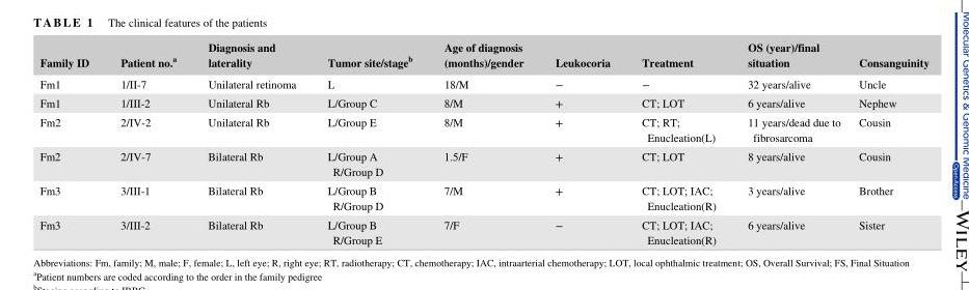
<table><thead><tr><td>Family ID</td><td>Patient no.<sup>a</sup></td><td>Diagnosis and laterality</td><td>Tumor site/stage<sup>b</sup></td><td>Age of diagnosis (months)/gender</td><td>Leukocoria</td><td>Treatment</td><td>OS (year)/final situation</td><td>Consanguinity</td></tr></thead><tbody><tr><td>Fm1</td><td>1/II‐7</td><td>Unilateral retinoma</td><td>L</td><td>18/M</td><td>−</td><td>−</td><td>32 years/alive</td><td>Uncle</td></tr><tr><td>Fm1</td><td>1/III‐2</td><td>Unilateral Rb</td><td>L/Group C</td><td>8/M</td><td>+</td><td>CT; LOT</td><td>6 years/alive</td><td>Nephew</td></tr><tr><td>Fm2</td><td>2/IV‐2</td><td>Unilateral Rb</td><td>L/Group E</td><td>8/M</td><td>+</td><td>CT; RT; Enucleation(L)</td><td>11 years/dead due to fibrosarcoma</td><td>Cousin</td></tr><tr><td>Fm2</td><td>2/IV‐7</td><td>Bilateral Rb</td><td>L/Group A R/Group D</td><td>1.5/F</td><td>+</td><td>CT; LOT</td><td>8 years/alive</td><td>Cousin</td></tr><tr><td>Fm3</td><td>3/III‐1</td><td>Bilateral Rb</td><td>L/Group B R/Group D</td><td>7/M</td><td>+</td><td>CT; LOT; IAC; Enucleation(R)</td><td>3 years/alive</td><td>Brother</td></tr><tr><td>Fm3</td><td>3/III‐2</td><td>Bilateral Rb</td><td>L/Group B R/Group E</td><td>7/F</td><td>−</td><td>CT; LOT; IAC; Enucleation(R)</td><td>6 years/alive</td><td>Sister</td></tr></tbody></table>